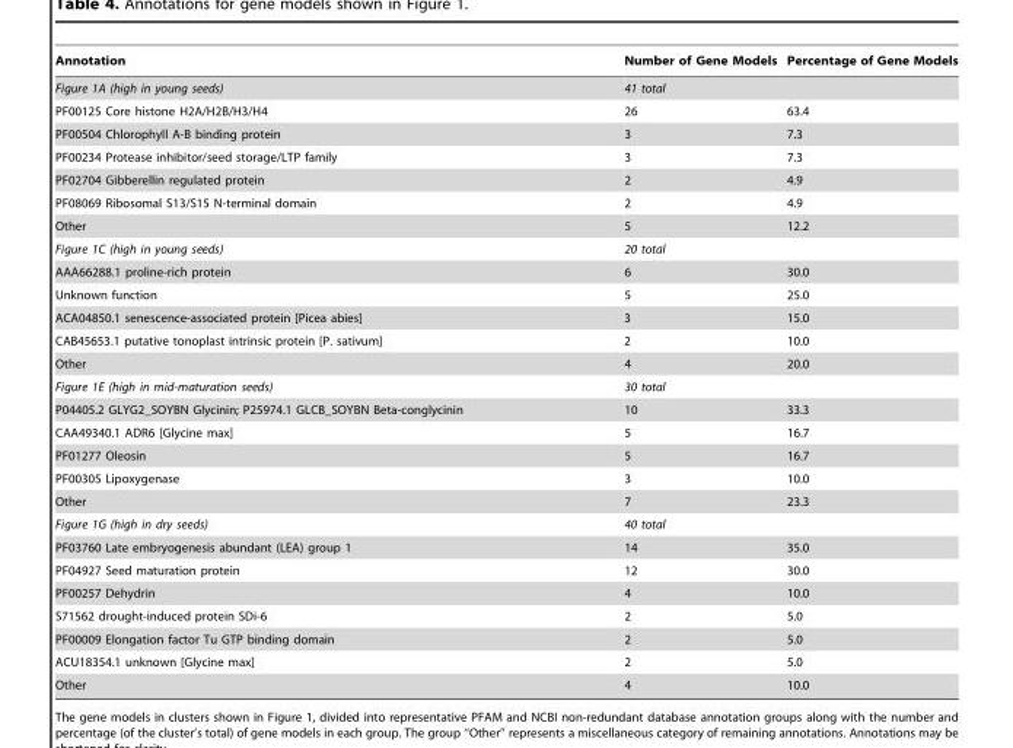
<table><thead><tr><td>Annotation</td><td>Number of Gene Models</td><td>Percentage of Gene Models</td></tr></thead><tbody><tr><td>Figure 1A (high in young seeds)</td><td>41 total</td><td></td></tr><tr><td>PF00125 Core histone H2A/H2B/H3/H4</td><td>26</td><td>63.4</td></tr><tr><td>PF00504 Chlorophyll A-B binding protein</td><td>3</td><td>7.3</td></tr><tr><td>PF00234 Protease inhibitor/seed storage/LTP family</td><td>3</td><td>7.3</td></tr><tr><td>PF02704 Gibberellin regulated protein</td><td>2</td><td>4.9</td></tr><tr><td>PF08069 Ribosomal S13/S15 N-terminal domain</td><td>2</td><td>4.9</td></tr><tr><td>Other</td><td>5</td><td>12.2</td></tr><tr><td>Figure 1C (high in young seeds)</td><td>20 total</td><td></td></tr><tr><td>AAA66288.1 proline-rich protein</td><td>6</td><td>30.0</td></tr><tr><td>Unknown function</td><td>5</td><td>25.0</td></tr><tr><td>ACA04850.1 senescence-associated protein [Picea abies]</td><td>3</td><td>15.0</td></tr><tr><td>CAB45653.1 putative tonoplast intrinsic protein [P. sativum]</td><td>2</td><td>10.0</td></tr><tr><td>Other</td><td>4</td><td>20.0</td></tr><tr><td>Figure 1E (high in mid-maturation seeds)</td><td>30 total</td><td></td></tr><tr><td>P04405.2 GLYG2_SOYBN Glycinin; P25974.1 GLCB_SOYBN Beta-conglycinin</td><td>10</td><td>33.3</td></tr><tr><td>CAA49340.1 ADR6 [Glycine max]</td><td>5</td><td>16.7</td></tr><tr><td>PF01277 Oleosin</td><td>5</td><td>16.7</td></tr><tr><td>PF00305 Lipoxygenase</td><td>3</td><td>10.0</td></tr><tr><td>Other</td><td>7</td><td>23.3</td></tr><tr><td>Figure 1G (high in dry seeds)</td><td>40 total</td><td></td></tr><tr><td>PF03760 Late embryogenesis abundant (LEA) group 1</td><td>14</td><td>35.0</td></tr><tr><td>PF04927 Seed maturation protein</td><td>12</td><td>30.0</td></tr><tr><td>PF00257 Dehydrin</td><td>4</td><td>10.0</td></tr><tr><td>S71562 drought-induced protein SDi-6</td><td>2</td><td>5.0</td></tr><tr><td>PF00009 Elongation factor Tu GTP binding domain</td><td>2</td><td>5.0</td></tr><tr><td>ACU18354.1 unknown [Glycine max]</td><td>2</td><td>5.0</td></tr><tr><td>Other</td><td>4</td><td>10.0</td></tr></tbody></table>